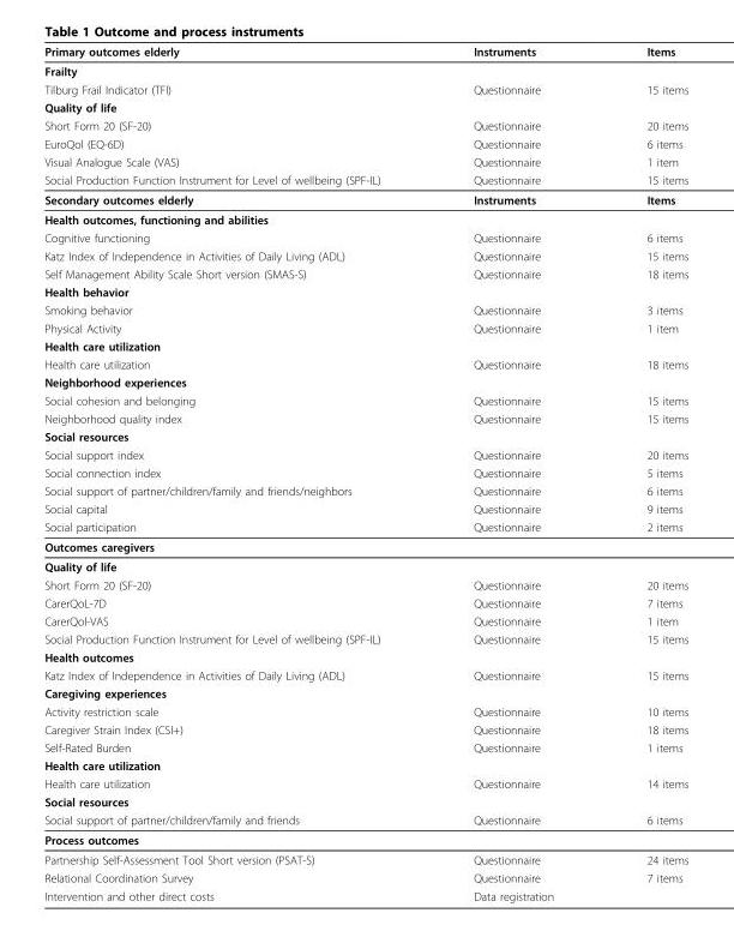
<table><thead><tr><td>Primary outcomes elderly</td><td>Instruments</td><td>Items</td></tr></thead><tbody><tr><td colspan="3">Frailty</td></tr><tr><td>Tilburg Frail Indicator (TFI)</td><td>Questionnaire</td><td>15 items</td></tr><tr><td colspan="3">Quality of life</td></tr><tr><td>Short Form 20 (SF-20)</td><td>Questionnaire</td><td>20 items</td></tr><tr><td>EuroQol (EQ-6D)</td><td>Questionnaire</td><td>6 items</td></tr><tr><td>Visual Analogue Scale (VAS)</td><td>Questionnaire</td><td>1 item</td></tr><tr><td>Social Production Function Instrument for Level of wellbeing (SPF-IL)</td><td>Questionnaire</td><td>15 items</td></tr><tr><td>Secondary outcomes elderly</td><td>Instruments</td><td>Items</td></tr><tr><td colspan="3">Health outcomes, functioning and abilities</td></tr><tr><td>Cognitive functioning</td><td>Questionnaire</td><td>6 items</td></tr><tr><td>Katz Index of Independence in Activities of Daily Living (ADL)</td><td>Questionnaire</td><td>15 items</td></tr><tr><td>Self Management Ability Scale Short version (SMAS-S)</td><td>Questionnaire</td><td>18 items</td></tr><tr><td colspan="3">Health behavior</td></tr><tr><td>Smoking behavior</td><td>Questionnaire</td><td>3 items</td></tr><tr><td>Physical Activity</td><td>Questionnaire</td><td>1 item</td></tr><tr><td colspan="3">Health care utilization</td></tr><tr><td>Health care utilization</td><td>Questionnaire</td><td>18 items</td></tr><tr><td colspan="3">Neighborhood experiences</td></tr><tr><td>Social cohesion and belonging</td><td>Questionnaire</td><td>15 items</td></tr><tr><td>Neighborhood quality index</td><td>Questionnaire</td><td>15 items</td></tr><tr><td colspan="3">Social resources</td></tr><tr><td>Social support index</td><td>Questionnaire</td><td>20 items</td></tr><tr><td>Social connection index</td><td>Questionnaire</td><td>5 items</td></tr><tr><td>Social support of partner/children/family and friends/neighbors</td><td>Questionnaire</td><td>6 items</td></tr><tr><td>Social capital</td><td>Questionnaire</td><td>9 items</td></tr><tr><td>Social participation</td><td>Questionnaire</td><td>2 items</td></tr><tr><td colspan="3">Outcomes caregivers</td></tr><tr><td colspan="3">Quality of life</td></tr><tr><td>Short Form 20 (SF-20)</td><td>Questionnaire</td><td>20 items</td></tr><tr><td>CarerQoL-7D</td><td>Questionnaire</td><td>7 items</td></tr><tr><td>CarerQol-VAS</td><td>Questionnaire</td><td>1 item</td></tr><tr><td>Social Production Function Instrument for Level of wellbeing (SPF-IL)</td><td>Questionnaire</td><td>15 items</td></tr><tr><td colspan="3">Health outcomes</td></tr><tr><td>Katz Index of Independence in Activities of Daily Living (ADL)</td><td>Questionnaire</td><td>15 items</td></tr><tr><td colspan="3">Caregiving experiences</td></tr><tr><td>Activity restriction scale</td><td>Questionnaire</td><td>10 items</td></tr><tr><td>Caregiver Strain Index (CSI+)</td><td>Questionnaire</td><td>18 items</td></tr><tr><td>Self-Rated Burden</td><td>Questionnaire</td><td>1 items</td></tr><tr><td colspan="3">Health care utilization</td></tr><tr><td>Health care utilization</td><td>Questionnaire</td><td>14 items</td></tr><tr><td colspan="3">Social resources</td></tr><tr><td>Social support of partner/children/family and friends</td><td>Questionnaire</td><td>6 items</td></tr><tr><td colspan="3">Process outcomes</td></tr><tr><td>Partnership Self-Assessment Tool Short version (PSAT-S)</td><td>Questionnaire</td><td>24 items</td></tr><tr><td>Relational Coordination Survey</td><td>Questionnaire</td><td>7 items</td></tr><tr><td>Intervention and other direct costs</td><td>Data registration</td><td></td></tr></tbody></table>